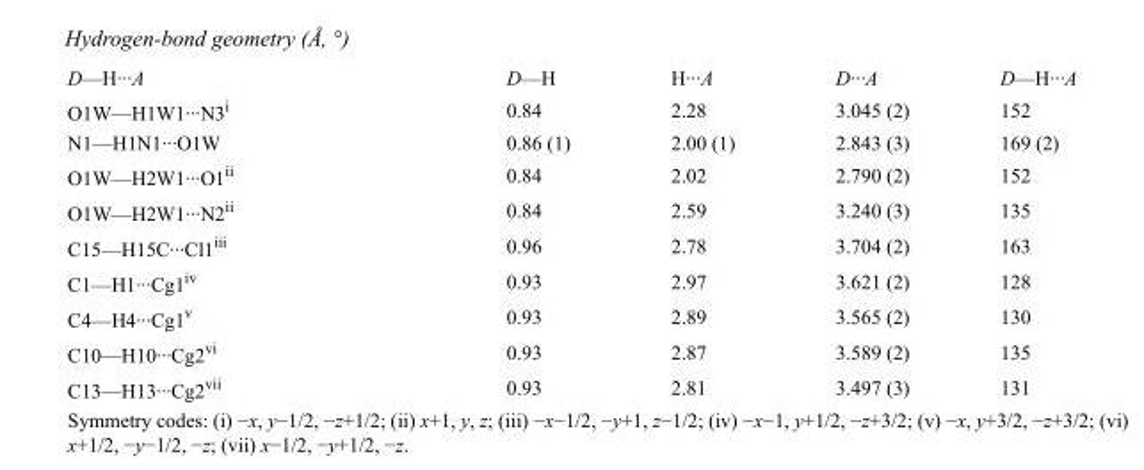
<table><tbody><tr><td>D—H···A</td><td>D—H</td><td>H···A</td><td>D···A</td><td>D—H···A</td></tr><tr><td>O1W—H1W1···N3<sup>i</sup></td><td>0.84</td><td>2.28</td><td>3.045 (2)</td><td>152</td></tr><tr><td>N1—H1N1···O1W</td><td>0.86 (1)</td><td>2.00 (1)</td><td>2.843 (3)</td><td>169 (2)</td></tr><tr><td>O1W—H2W1···O1<sup>ii</sup></td><td>0.84</td><td>2.02</td><td>2.790 (2)</td><td>152</td></tr><tr><td>O1W—H2W1···N2<sup>ii</sup></td><td>0.84</td><td>2.59</td><td>3.240 (3)</td><td>135</td></tr><tr><td>C15—H15C···Cl1<sup>iii</sup></td><td>0.96</td><td>2.78</td><td>3.704 (2)</td><td>163</td></tr><tr><td>C1—H1···Cg1<sup>iv</sup></td><td>0.93</td><td>2.97</td><td>3.621 (2)</td><td>128</td></tr><tr><td>C4—H4···Cg1<sup>v</sup></td><td>0.93</td><td>2.89</td><td>3.565 (2)</td><td>130</td></tr><tr><td>C10—H10···Cg2<sup>vi</sup></td><td>0.93</td><td>2.87</td><td>3.589 (2)</td><td>135</td></tr><tr><td>C13—H13···Cg2<sup>vii</sup></td><td>0.93</td><td>2.81</td><td>3.497 (3)</td><td>131</td></tr></tbody></table>